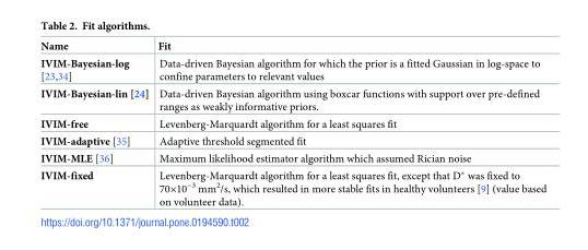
<table><thead><tr><td>Name</td><td>Fit</td></tr></thead><tbody><tr><td>IVIM-Bayesian-log [23,34]</td><td>Data-driven Bayesian algorithm for which the prior is a fitted Gaussian in log-space to confine parameters to relevant values</td></tr><tr><td>IVIM-Bayesian-lin [24]</td><td>Data-driven Bayesian algorithm using boxcar functions with support over pre-defined ranges as weakly informative priors.</td></tr><tr><td>IVIM-free</td><td>Levenberg-Marquardt algorithm for a least squares fit</td></tr><tr><td>IVIM-adaptive [35]</td><td>Adaptive threshold segmented fit</td></tr><tr><td>IVIM-MLE [36]</td><td>Maximum likelihood estimator algorithm which assumed Rician noise</td></tr><tr><td>IVIM-fixed</td><td>Levenberg-Marquardt algorithm for a least squares fit, except that D* was fixed to 70×10<sup>−3</sup> mm<sup>2</sup>/s, which resulted in more stable fits in healthy volunteers [9] (value based on volunteer data).</td></tr></tbody></table>